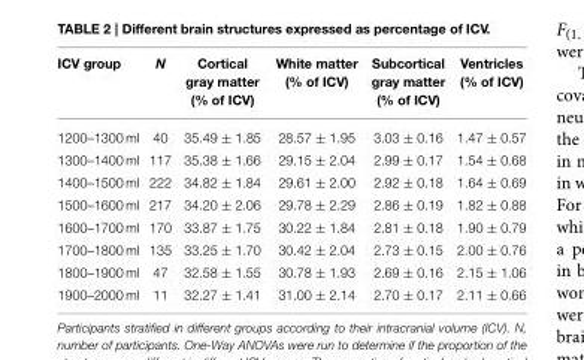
<table><thead><tr><td>ICV group</td><td>N</td><td>Cortical gray matter (% of ICV)</td><td>White matter (% of ICV)</td><td>Subcortical gray matter (% of ICV)</td><td>Ventricles (% of ICV)</td></tr></thead><tbody><tr><td>1200–1300 ml</td><td>40</td><td>35.49 ± 1.85</td><td>28.57 ± 1.95</td><td>3.03 ± 0.16</td><td>1.47 ± 0.57</td></tr><tr><td>1300–1400 ml</td><td>117</td><td>35.38 ± 1.66</td><td>29.15 ± 2.04</td><td>2.99 ± 0.17</td><td>1.54 ± 0.68</td></tr><tr><td>1400–1500 ml</td><td>222</td><td>34.82 ± 1.84</td><td>29.61 ± 2.00</td><td>2.92 ± 0.18</td><td>1.64 ± 0.69</td></tr><tr><td>1500–1600 ml</td><td>217</td><td>34.20 ± 2.06</td><td>29.78 ± 2.29</td><td>2.86 ± 0.19</td><td>1.82 ± 0.88</td></tr><tr><td>1600–1700 ml</td><td>170</td><td>33.87 ± 1.75</td><td>30.22 ± 1.84</td><td>2.81 ± 0.18</td><td>1.90 ± 0.79</td></tr><tr><td>1700–1800 ml</td><td>135</td><td>33.25 ± 1.70</td><td>30.42 ± 2.04</td><td>2.73 ± 0.15</td><td>2.00 ± 0.76</td></tr><tr><td>1800–1900 ml</td><td>47</td><td>32.58 ± 1.55</td><td>30.78 ± 1.93</td><td>2.69 ± 0.16</td><td>2.15 ± 1.06</td></tr><tr><td>1900–2000 ml</td><td>11</td><td>32.27 ± 1.41</td><td>31.00 ± 2.14</td><td>2.70 ± 0.17</td><td>2.11 ± 0.66</td></tr></tbody></table>